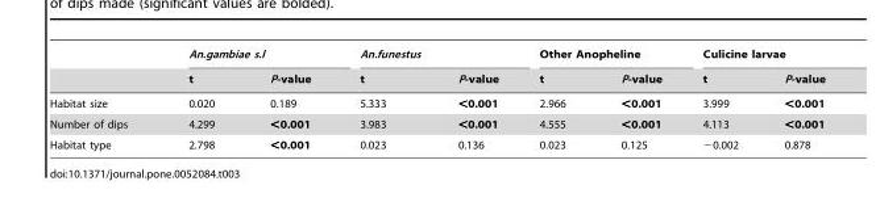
<table><thead><tr><td rowspan="2"></td><td colspan="2">An.gambiae s.l</td><td colspan="2">An.funestus</td><td colspan="2">Other Anopheline</td><td colspan="2">Culicine larvae</td></tr><tr><td>t</td><td>P-value</td><td>t</td><td>P-value</td><td>t</td><td>P-value</td><td>t</td><td>P-value</td></tr></thead><tbody><tr><td>Habitat size</td><td>0.020</td><td>0.189</td><td>5.333</td><td>&lt;0.001</td><td>2.966</td><td>&lt;0.001</td><td>3.999</td><td>&lt;0.001</td></tr><tr><td>Number of dips</td><td>4.299</td><td>&lt;0.001</td><td>3.983</td><td>&lt;0.001</td><td>4.555</td><td>&lt;0.001</td><td>4.113</td><td>&lt;0.001</td></tr><tr><td>Habitat type</td><td>2.798</td><td>&lt;0.001</td><td>0.023</td><td>0.136</td><td>0.023</td><td>0.125</td><td>−0.002</td><td>0.878</td></tr></tbody></table>